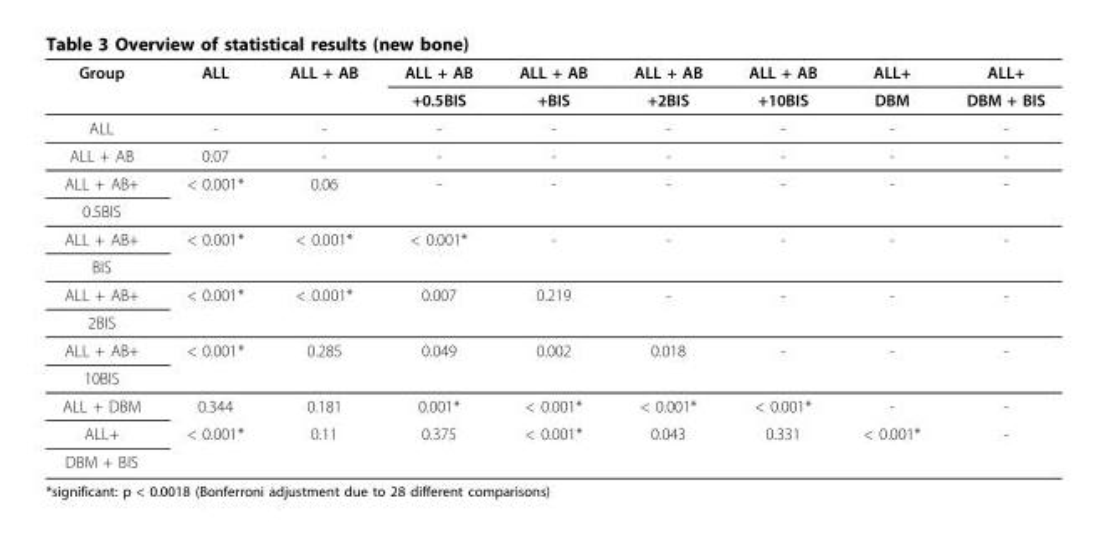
<table><thead><tr><td rowspan="2">Group</td><td rowspan="2">ALL</td><td rowspan="2">ALL + AB</td><td rowspan="2">ALL + AB +0.5BIS</td><td rowspan="2">ALL + AB +BIS</td><td rowspan="2">ALL + AB +2BIS</td><td rowspan="2">ALL + AB +10BIS</td><td rowspan="2">ALL+ DBM</td><td rowspan="2">ALL+ DBM + BIS</td></tr><tr></tr></thead><tbody><tr><td>ALL</td><td>-</td><td>-</td><td>-</td><td>-</td><td>-</td><td>-</td><td>-</td><td>-</td></tr><tr><td>ALL + AB</td><td>0.07</td><td>-</td><td>-</td><td>-</td><td>-</td><td>-</td><td>-</td><td>-</td></tr><tr><td>ALL + AB+</td><td>&lt; 0.001*</td><td>0.06</td><td>-</td><td>-</td><td>-</td><td>-</td><td>-</td><td>-</td></tr><tr><td colspan="9">0.5BIS</td></tr><tr><td>ALL + AB+</td><td>&lt; 0.001*</td><td>&lt; 0.001*</td><td>&lt; 0.001*</td><td>-</td><td>-</td><td>-</td><td>-</td><td>-</td></tr><tr><td colspan="9">BIS</td></tr><tr><td>ALL + AB+</td><td>&lt; 0.001*</td><td>&lt; 0.001*</td><td>0.007</td><td>0.219</td><td>-</td><td>-</td><td>-</td><td>-</td></tr><tr><td colspan="9">2BIS</td></tr><tr><td>ALL + AB+</td><td>&lt; 0.001*</td><td>0.285</td><td>0.049</td><td>0.002</td><td>0.018</td><td>-</td><td>-</td><td>-</td></tr><tr><td colspan="9">10BIS</td></tr><tr><td>ALL + DBM</td><td>0.344</td><td>0.181</td><td>0.001*</td><td>&lt; 0.001*</td><td>&lt; 0.001*</td><td>&lt; 0.001*</td><td>-</td><td>-</td></tr><tr><td>ALL+</td><td>&lt; 0.001*</td><td>0.11</td><td>0.375</td><td>&lt; 0.001*</td><td>0.043</td><td>0.331</td><td>&lt; 0.001*</td><td>-</td></tr><tr><td>DBM + BIS</td><td></td><td></td><td></td><td></td><td></td><td></td><td></td><td></td></tr></tbody></table>